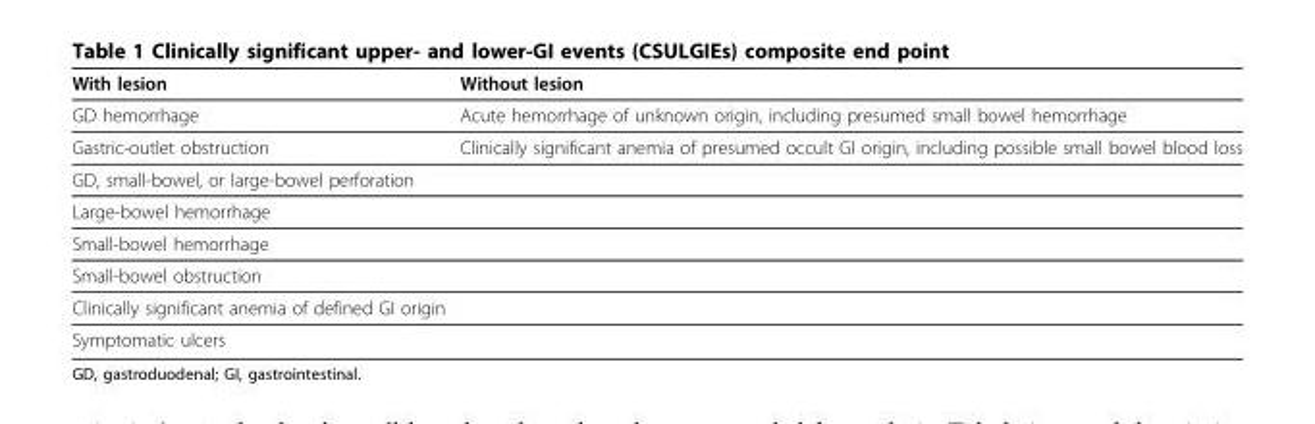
<table><thead><tr><td>With lesion</td><td>Without lesion</td></tr></thead><tbody><tr><td>GD hemorrhage</td><td>Acute hemorrhage of unknown origin, including presumed small bowel hemorrhage</td></tr><tr><td>Gastric-outlet obstruction</td><td>Clinically significant anemia of presumed occult GI origin, including possible small bowel blood loss</td></tr><tr><td colspan="2">GD, small-bowel, or large-bowel perforation</td></tr><tr><td colspan="2">Large-bowel hemorrhage</td></tr><tr><td colspan="2">Small-bowel hemorrhage</td></tr><tr><td colspan="2">Small-bowel obstruction</td></tr><tr><td colspan="2">Clinically significant anemia of defined GI origin</td></tr><tr><td>Symptomatic ulcers</td><td></td></tr></tbody></table>